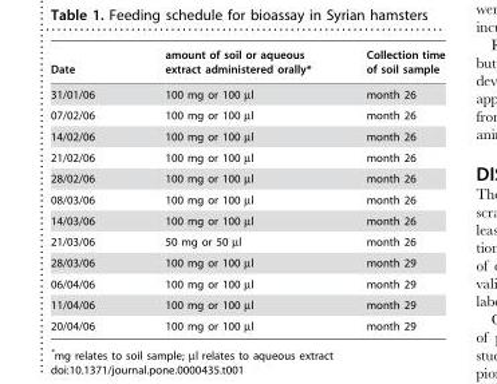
<table><thead><tr><td>Date</td><td>amount of soil or aqueous extract administered orally*</td><td>Collection time of soil sample</td></tr></thead><tbody><tr><td>31/01/06</td><td>100 mg or 100 µl</td><td>month 26</td></tr><tr><td>07/02/06</td><td>100 mg or 100 µl</td><td>month 26</td></tr><tr><td>14/02/06</td><td>100 mg or 100 µl</td><td>month 26</td></tr><tr><td>21/02/06</td><td>100 mg or 100 µl</td><td>month 26</td></tr><tr><td>28/02/06</td><td>100 mg or 100 µl</td><td>month 26</td></tr><tr><td>08/03/06</td><td>100 mg or 100 µl</td><td>month 26</td></tr><tr><td>14/03/06</td><td>100 mg or 100 µl</td><td>month 26</td></tr><tr><td>21/03/06</td><td>50 mg or 50 µl</td><td>month 26</td></tr><tr><td>28/03/06</td><td>100 mg or 100 µl</td><td>month 29</td></tr><tr><td>06/04/06</td><td>100 mg or 100 µl</td><td>month 29</td></tr><tr><td>11/04/06</td><td>100 mg or 100 µl</td><td>month 29</td></tr><tr><td>20/04/06</td><td>100 mg or 100 µl</td><td>month 29</td></tr></tbody></table>